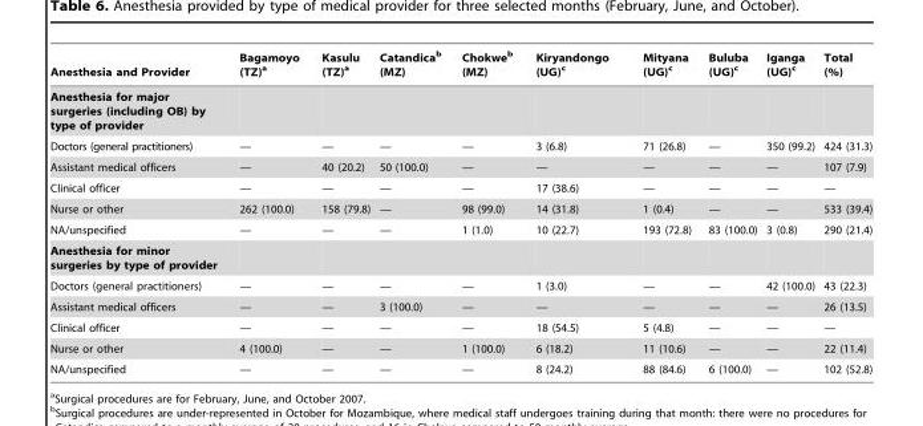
<table><thead><tr><td>Anesthesia and Provider</td><td>Bagamoyo (TZ)<sup>a</sup></td><td>Kasulu (TZ)<sup>a</sup></td><td>Catandica<sup>b</sup> (MZ)</td><td>Chokwe<sup>b</sup> (MZ)</td><td>Kiryandongo (UG)<sup>c</sup></td><td>Mityana (UG)<sup>c</sup></td><td>Buluba (UG)<sup>c</sup></td><td>Iganga (UG)<sup>c</sup></td><td>Total (%)</td></tr></thead><tbody><tr><td colspan="10">Anesthesia for major surgeries (including OB) by type of provider</td></tr><tr><td>Doctors (general practitioners)</td><td>—</td><td>—</td><td>—</td><td>—</td><td>3 (6.8)</td><td>71 (26.8)</td><td>—</td><td>350 (99.2)</td><td>424 (31.3)</td></tr><tr><td>Assistant medical officers</td><td>—</td><td>40 (20.2)</td><td>50 (100.0)</td><td>—</td><td>—</td><td>—</td><td>—</td><td>—</td><td>107 (7.9)</td></tr><tr><td>Clinical officer</td><td>—</td><td>—</td><td>—</td><td>—</td><td>17 (38.6)</td><td>—</td><td>—</td><td>—</td><td>—</td></tr><tr><td>Nurse or other</td><td>262 (100.0)</td><td>158 (79.8)</td><td>—</td><td>98 (99.0)</td><td>14 (31.8)</td><td>1 (0.4)</td><td>—</td><td>—</td><td>533 (39.4)</td></tr><tr><td>NA/unspecified</td><td>—</td><td>—</td><td>—</td><td>1 (1.0)</td><td>10 (22.7)</td><td>193 (72.8)</td><td>83 (100.0)</td><td>3 (0.8)</td><td>290 (21.4)</td></tr><tr><td colspan="10">Anesthesia for minor surgeries by type of provider</td></tr><tr><td>Doctors (general practitioners)</td><td>—</td><td>—</td><td>—</td><td>—</td><td>1 (3.0)</td><td>—</td><td>—</td><td>42 (100.0)</td><td>43 (22.3)</td></tr><tr><td>Assistant medical officers</td><td>—</td><td>—</td><td>3 (100.0)</td><td>—</td><td>—</td><td>—</td><td>—</td><td>—</td><td>26 (13.5)</td></tr><tr><td>Clinical officer</td><td>—</td><td>—</td><td>—</td><td>—</td><td>18 (54.5)</td><td>5 (4.8)</td><td>—</td><td>—</td><td>—</td></tr><tr><td>Nurse or other</td><td>4 (100.0)</td><td>—</td><td>—</td><td>1 (100.0)</td><td>6 (18.2)</td><td>11 (10.6)</td><td>—</td><td>—</td><td>22 (11.4)</td></tr><tr><td>NA/unspecified</td><td>—</td><td>—</td><td>—</td><td>—</td><td>8 (24.2)</td><td>88 (84.6)</td><td>6 (100.0)</td><td>—</td><td>102 (52.8)</td></tr></tbody></table>